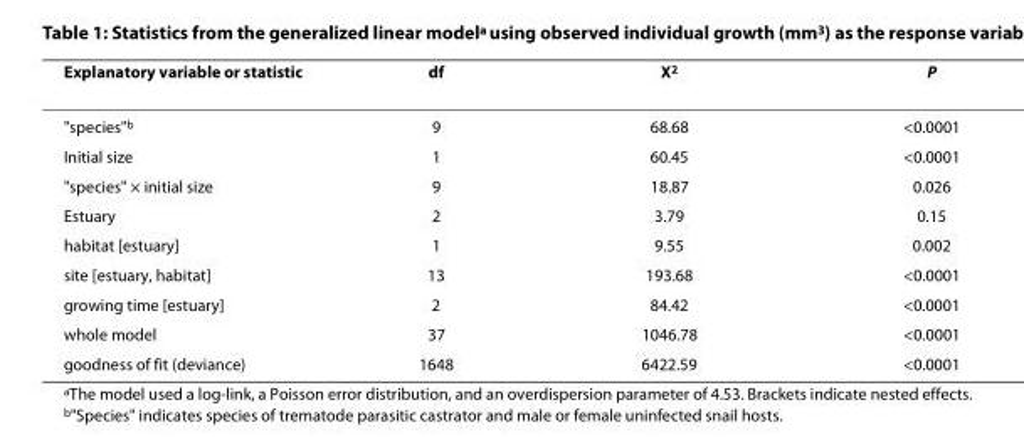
<table><thead><tr><td>Explanatory variable or statistic</td><td>df</td><td>Χ<sup>2</sup></td><td>P</td></tr></thead><tbody><tr><td>&quot;species&quot;<sup>b</sup></td><td>9</td><td>68.68</td><td>&lt;0.0001</td></tr><tr><td>Initial size</td><td>1</td><td>60.45</td><td>&lt;0.0001</td></tr><tr><td>&quot;species&quot; × initial size</td><td>9</td><td>18.87</td><td>0.026</td></tr><tr><td>Estuary</td><td>2</td><td>3.79</td><td>0.15</td></tr><tr><td>habitat [estuary]</td><td>1</td><td>9.55</td><td>0.002</td></tr><tr><td>site [estuary, habitat]</td><td>13</td><td>193.68</td><td>&lt;0.0001</td></tr><tr><td>growing time [estuary]</td><td>2</td><td>84.42</td><td>&lt;0.0001</td></tr><tr><td>whole model</td><td>37</td><td>1046.78</td><td>&lt;0.0001</td></tr><tr><td>goodness of fit (deviance)</td><td>1648</td><td>6422.59</td><td>&lt;0.0001</td></tr></tbody></table>